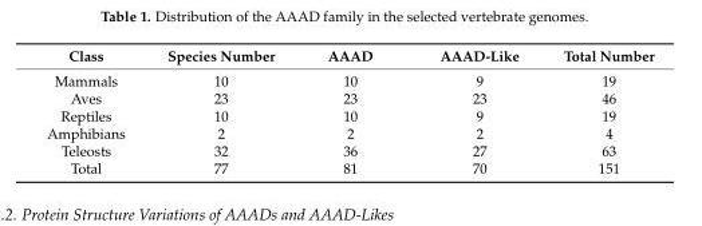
<table><thead><tr><td>Class</td><td>Species Number</td><td>AAAD</td><td>AAAD-Like</td><td>Total Number</td></tr></thead><tbody><tr><td>Mammals</td><td>10</td><td>10</td><td>9</td><td>19</td></tr><tr><td>Aves</td><td>23</td><td>23</td><td>23</td><td>46</td></tr><tr><td>Reptiles</td><td>10</td><td>10</td><td>9</td><td>19</td></tr><tr><td>Amphibians</td><td>2</td><td>2</td><td>2</td><td>4</td></tr><tr><td>Teleosts</td><td>32</td><td>36</td><td>27</td><td>63</td></tr><tr><td>Total</td><td>77</td><td>81</td><td>70</td><td>151</td></tr></tbody></table>